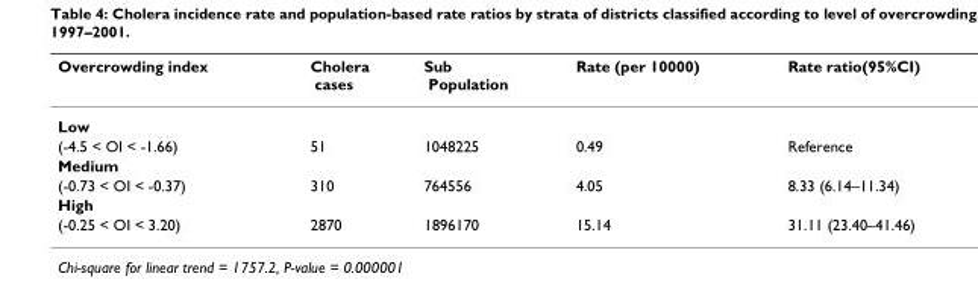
<table><thead><tr><td>Overcrowding index</td><td>Cholera cases</td><td>Sub Population</td><td>Rate (per 10000)</td><td>Rate ratio(95%CI)</td></tr></thead><tbody><tr><td colspan="5">Low</td></tr><tr><td>(-4.5 &lt; OI &lt; -1.66)</td><td>51</td><td>1048225</td><td>0.49</td><td>Reference</td></tr><tr><td colspan="5">Medium</td></tr><tr><td>(-0.73 &lt; OI &lt; -0.37)</td><td>310</td><td>764556</td><td>4.05</td><td>8.33 (6.14–11.34)</td></tr><tr><td colspan="5">High</td></tr><tr><td>(-0.25 &lt; OI &lt; 3.20)</td><td>2870</td><td>1896170</td><td>15.14</td><td>31.11 (23.40–41.46)</td></tr></tbody></table>